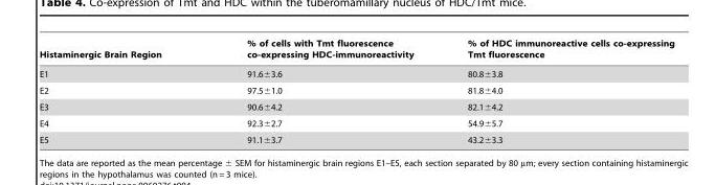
<table><thead><tr><td>Histaminergic Brain Region</td><td>% of cells with Tmt fluorescence co-expressing HDC-immunoreactivity</td><td>% of HDC immunoreactive cells co-expressing Tmt fluorescence</td></tr></thead><tbody><tr><td>E1</td><td>91.6±3.6</td><td>80.8±3.8</td></tr><tr><td>E2</td><td>97.5±1.0</td><td>81.8±4.0</td></tr><tr><td>E3</td><td>90.6±4.2</td><td>82.1±4.2</td></tr><tr><td>E4</td><td>92.3±2.7</td><td>54.9±5.7</td></tr><tr><td>E5</td><td>91.1±3.7</td><td>43.2±3.3</td></tr></tbody></table>